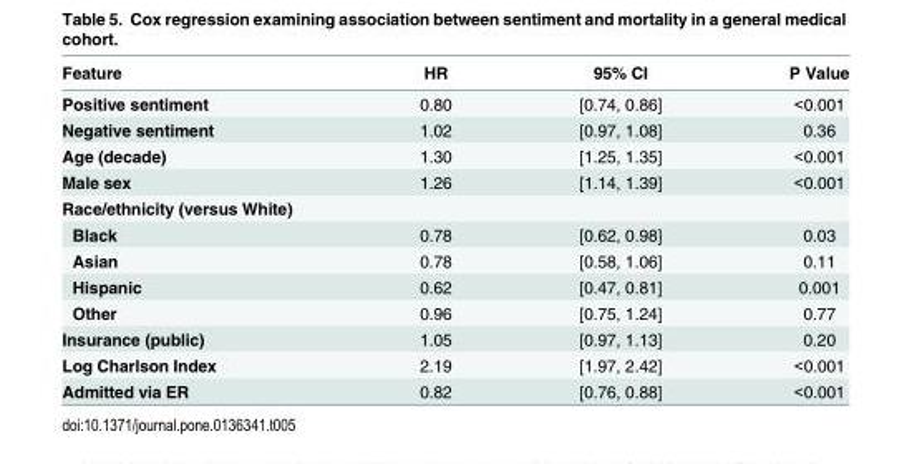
<table><thead><tr><td>Feature</td><td>HR</td><td>95% CI</td><td>P Value</td></tr></thead><tbody><tr><td>Positive sentiment</td><td>0.80</td><td>[0.74, 0.86]</td><td>&lt;0.001</td></tr><tr><td>Negative sentiment</td><td>1.02</td><td>[0.97, 1.08]</td><td>0.36</td></tr><tr><td>Age (decade)</td><td>1.30</td><td>[1.25, 1.35]</td><td>&lt;0.001</td></tr><tr><td>Male sex</td><td>1.26</td><td>[1.14, 1.39]</td><td>&lt;0.001</td></tr><tr><td colspan="4">Race/ethnicity (versus White)</td></tr><tr><td>Black</td><td>0.78</td><td>[0.62, 0.98]</td><td>0.03</td></tr><tr><td>Asian</td><td>0.78</td><td>[0.58, 1.06]</td><td>0.11</td></tr><tr><td>Hispanic</td><td>0.62</td><td>[0.47, 0.81]</td><td>0.001</td></tr><tr><td>Other</td><td>0.96</td><td>[0.75, 1.24]</td><td>0.77</td></tr><tr><td>Insurance (public)</td><td>1.05</td><td>[0.97, 1.13]</td><td>0.20</td></tr><tr><td>Log Charlson Index</td><td>2.19</td><td>[1.97, 2.42]</td><td>&lt;0.001</td></tr><tr><td>Admitted via ER</td><td>0.82</td><td>[0.76, 0.88]</td><td>&lt;0.001</td></tr></tbody></table>